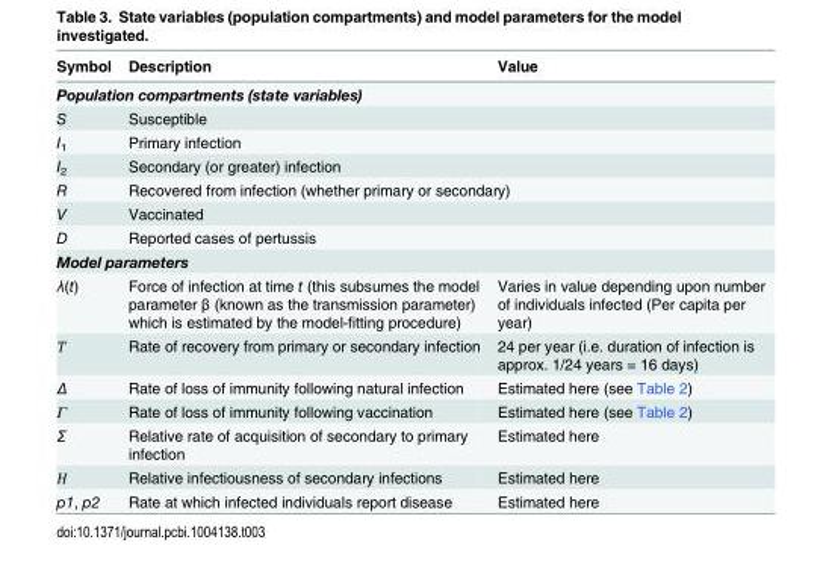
<table><thead><tr><td>Symbol</td><td>Description</td><td>Value</td></tr></thead><tbody><tr><td colspan="3">Population compartments (state variables)</td></tr><tr><td>S</td><td colspan="2">Susceptible</td></tr><tr><td>I<sub>1</sub></td><td colspan="2">Primary infection</td></tr><tr><td>I<sub>2</sub></td><td colspan="2">Secondary (or greater) infection</td></tr><tr><td>R</td><td colspan="2">Recovered from infection (whether primary or secondary)</td></tr><tr><td>V</td><td colspan="2">Vaccinated</td></tr><tr><td>D</td><td colspan="2">Reported cases of pertussis</td></tr><tr><td colspan="3">Model parameters</td></tr><tr><td>λ(t)</td><td>Force of infection at time t (this subsumes the model parameter β (known as the transmission parameter) which is estimated by the model-fitting procedure)</td><td>Varies in value depending upon number of individuals infected (Per capita per year)</td></tr><tr><td>Τ</td><td>Rate of recovery from primary or secondary infection</td><td>24 per year (i.e. duration of infection is approx. 1/24 years = 16 days)</td></tr><tr><td>Δ</td><td>Rate of loss of immunity following natural infection</td><td>Estimated here (see Table 2)</td></tr><tr><td>Γ</td><td>Rate of loss of immunity following vaccination</td><td>Estimated here (see Table 2)</td></tr><tr><td>Σ</td><td>Relative rate of acquisition of secondary to primary infection</td><td>Estimated here</td></tr><tr><td>Η</td><td>Relative infectiousness of secondary infections</td><td>Estimated here</td></tr><tr><td>p1, p2</td><td>Rate at which infected individuals report disease</td><td>Estimated here</td></tr></tbody></table>